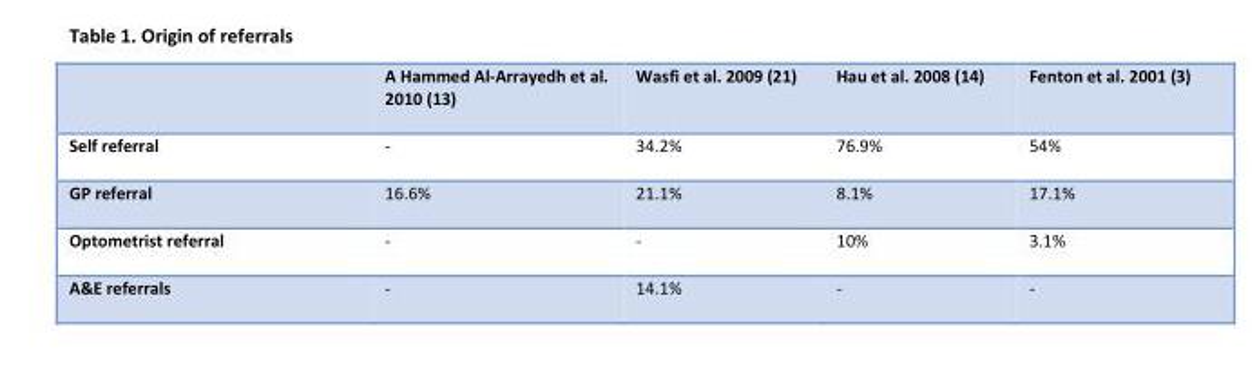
<table><thead><tr><td></td><td>A Hammed Al-Arrayedh et al. 2010 (13)</td><td>Wasfi et al. 2009 (21)</td><td>Hau et al. 2008 (14)</td><td>Fenton et al. 2001 (3)</td></tr></thead><tbody><tr><td>Self referral</td><td>-</td><td>34.2%</td><td>76.9%</td><td>54%</td></tr><tr><td>GP referral</td><td>16.6%</td><td>21.1%</td><td>8.1%</td><td>17.1%</td></tr><tr><td>Optometrist referral</td><td>-</td><td>-</td><td>10%</td><td>3.1%</td></tr><tr><td>A&amp;E referrals</td><td>-</td><td>14.1%</td><td>-</td><td>-</td></tr></tbody></table>